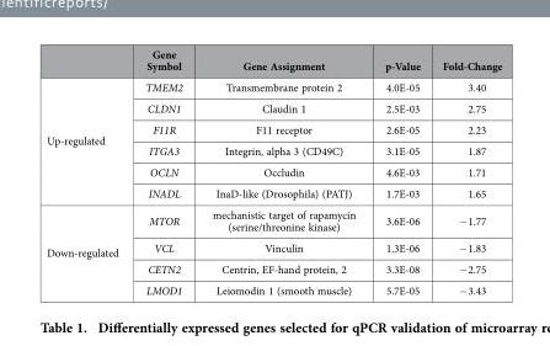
<table><thead><tr><td></td><td>Gene Symbol</td><td>Gene Assignment</td><td>p-Value</td><td>Fold-Change</td></tr></thead><tbody><tr><td rowspan="6">Up-regulated</td><td>TMEM2</td><td>Transmembrane protein 2</td><td>4.0E-05</td><td>3.40</td></tr><tr><td>CLDN1</td><td>Claudin 1</td><td>2.5E-03</td><td>2.75</td></tr><tr><td>F11R</td><td>F11 receptor</td><td>2.6E-05</td><td>2.23</td></tr><tr><td>ITGA3</td><td>Integrin, alpha 3 (CD49C)</td><td>3.1E-05</td><td>1.87</td></tr><tr><td>OCLN</td><td>Occludin</td><td>4.6E-03</td><td>1.71</td></tr><tr><td>INADL</td><td>InaD-like (Drosophila) (PATJ)</td><td>1.7E-03</td><td>1.65</td></tr><tr><td rowspan="4">Down-regulated</td><td>MTOR</td><td>mechanistic target of rapamycin (serine/threonine kinase)</td><td>3.6E-06</td><td>− 1.77</td></tr><tr><td>VCL</td><td>Vinculin</td><td>1.3E-06</td><td>− 1.83</td></tr><tr><td>CETN2</td><td>Centrin, EF-hand protein, 2</td><td>3.3E-08</td><td>− 2.75</td></tr><tr><td>LMOD1</td><td>Leiomodin 1 (smooth muscle)</td><td>5.7E-05</td><td>− 3.43</td></tr></tbody></table>